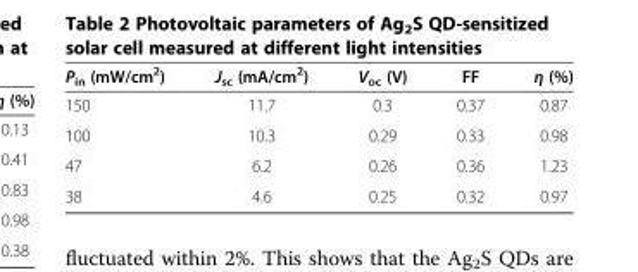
<table><thead><tr><td>P<sub>in</sub> (mW/cm<sup>2</sup>)</td><td>J<sub>sc</sub> (mA/cm<sup>2</sup>)</td><td>V<sub>oc</sub> (V)</td><td>FF</td><td>η (%)</td></tr></thead><tbody><tr><td>150</td><td>11.7</td><td>0.3</td><td>0.37</td><td>0.87</td></tr><tr><td>100</td><td>10.3</td><td>0.29</td><td>0.33</td><td>0.98</td></tr><tr><td>47</td><td>6.2</td><td>0.26</td><td>0.36</td><td>1.23</td></tr><tr><td>38</td><td>4.6</td><td>0.25</td><td>0.32</td><td>0.97</td></tr></tbody></table>